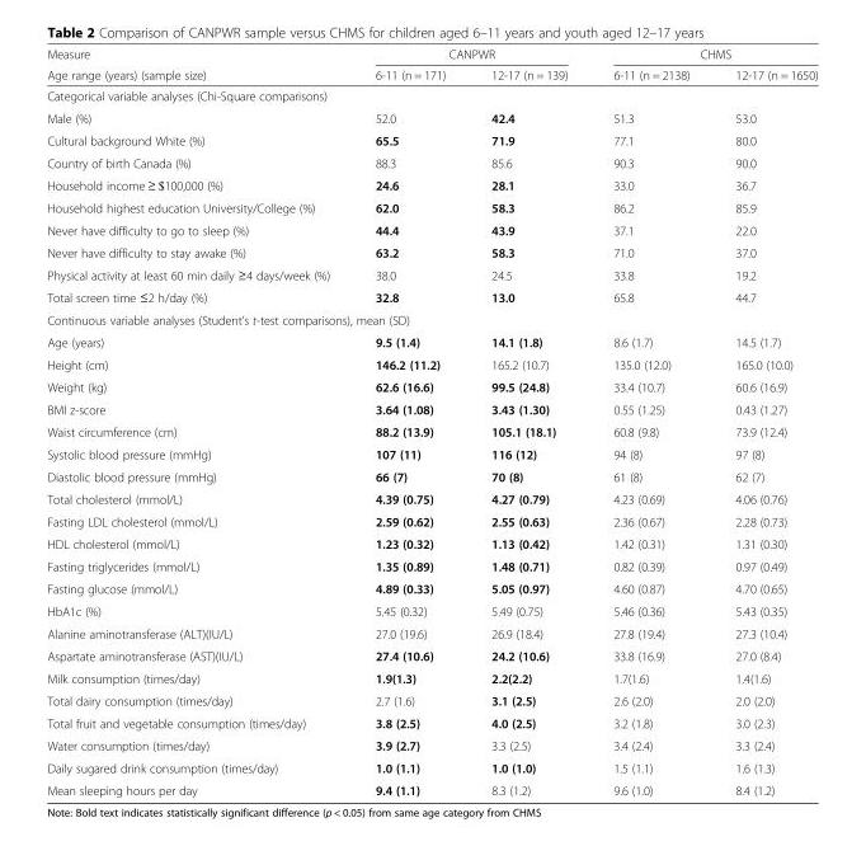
<table><thead><tr><td rowspan="2">Measure Age range (years) (sample size)</td><td colspan="2">CANPWR</td><td colspan="2">CHMS</td></tr><tr><td>6-11 (n = 171)</td><td>12-17 (n = 139)</td><td>6-11 (n = 2138)</td><td>12-17 (n = 1650)</td></tr></thead><tbody><tr><td colspan="5">Categorical variable analyses (Chi-Square comparisons)</td></tr><tr><td>Male (%)</td><td>52.0</td><td>42.4</td><td>51.3</td><td>53.0</td></tr><tr><td>Cultural background White (%)</td><td>65.5</td><td>71.9</td><td>77.1</td><td>80.0</td></tr><tr><td>Country of birth Canada (%)</td><td>88.3</td><td>85.6</td><td>90.3</td><td>90.0</td></tr><tr><td>Household income ≥ $100,000 (%)</td><td>24.6</td><td>28.1</td><td>33.0</td><td>36.7</td></tr><tr><td>Household highest education University/College (%)</td><td>62.0</td><td>58.3</td><td>86.2</td><td>85.9</td></tr><tr><td>Never have difficulty to go to sleep (%)</td><td>44.4</td><td>43.9</td><td>37.1</td><td>22.0</td></tr><tr><td>Never have difficulty to stay awake (%)</td><td>63.2</td><td>58.3</td><td>71.0</td><td>37.0</td></tr><tr><td>Physical activity at least 60 min daily ≥4 days/week (%)</td><td>38.0</td><td>24.5</td><td>33.8</td><td>19.2</td></tr><tr><td>Total screen time ≤2 h/day (%)</td><td>32.8</td><td>13.0</td><td>65.8</td><td>44.7</td></tr><tr><td colspan="5">Continuous variable analyses (Student’s t-test comparisons), mean (SD)</td></tr><tr><td>Age (years)</td><td>9.5 (1.4)</td><td>14.1 (1.8)</td><td>8.6 (1.7)</td><td>14.5 (1.7)</td></tr><tr><td>Height (cm)</td><td>146.2 (11.2)</td><td>165.2 (10.7)</td><td>135.0 (12.0)</td><td>165.0 (10.0)</td></tr><tr><td>Weight (kg)</td><td>62.6 (16.6)</td><td>99.5 (24.8)</td><td>33.4 (10.7)</td><td>60.6 (16.9)</td></tr><tr><td>BMI z-score</td><td>3.64 (1.08)</td><td>3.43 (1.30)</td><td>0.55 (1.25)</td><td>0.43 (1.27)</td></tr><tr><td>Waist circumference (cm)</td><td>88.2 (13.9)</td><td>105.1 (18.1)</td><td>60.8 (9.8)</td><td>73.9 (12.4)</td></tr><tr><td>Systolic blood pressure (mmHg)</td><td>107 (11)</td><td>116 (12)</td><td>94 (8)</td><td>97 (8)</td></tr><tr><td>Diastolic blood pressure (mmHg)</td><td>66 (7)</td><td>70 (8)</td><td>61 (8)</td><td>62 (7)</td></tr><tr><td>Total cholesterol (mmol/L)</td><td>4.39 (0.75)</td><td>4.27 (0.79)</td><td>4.23 (0.69)</td><td>4.06 (0.76)</td></tr><tr><td>Fasting LDL cholesterol (mmol/L)</td><td>2.59 (0.62)</td><td>2.55 (0.63)</td><td>2.36 (0.67)</td><td>2.28 (0.73)</td></tr><tr><td>HDL cholesterol (mmol/L)</td><td>1.23 (0.32)</td><td>1.13 (0.42)</td><td>1.42 (0.31)</td><td>1.31 (0.30)</td></tr><tr><td>Fasting triglycerides (mmol/L)</td><td>1.35 (0.89)</td><td>1.48 (0.71)</td><td>0.82 (0.39)</td><td>0.97 (0.49)</td></tr><tr><td>Fasting glucose (mmol/L)</td><td>4.89 (0.33)</td><td>5.05 (0.97)</td><td>4.60 (0.87)</td><td>4.70 (0.65)</td></tr><tr><td>HbA1c (%)</td><td>5.45 (0.32)</td><td>5.49 (0.75)</td><td>5.46 (0.36)</td><td>5.43 (0.35)</td></tr><tr><td>Alanine aminotransferase (ALT)(IU/L)</td><td>27.0 (19.6)</td><td>26.9 (18.4)</td><td>27.8 (19.4)</td><td>27.3 (10.4)</td></tr><tr><td>Aspartate aminotransferase (AST)(IU/L)</td><td>27.4 (10.6)</td><td>24.2 (10.6)</td><td>33.8 (16.9)</td><td>27.0 (8.4)</td></tr><tr><td>Milk consumption (times/day)</td><td>1.9(1.3)</td><td>2.2(2.2)</td><td>1.7(1.6)</td><td>1.4(1.6)</td></tr><tr><td>Total dairy consumption (times/day)</td><td>2.7 (1.6)</td><td>3.1 (2.5)</td><td>2.6 (2.0)</td><td>2.0 (2.0)</td></tr><tr><td>Total fruit and vegetable consumption (times/day)</td><td>3.8 (2.5)</td><td>4.0 (2.5)</td><td>3.2 (1.8)</td><td>3.0 (2.3)</td></tr><tr><td>Water consumption (times/day)</td><td>3.9 (2.7)</td><td>3.3 (2.5)</td><td>3.4 (2.4)</td><td>3.3 (2.4)</td></tr><tr><td>Daily sugared drink consumption (times/day)</td><td>1.0 (1.1)</td><td>1.0 (1.0)</td><td>1.5 (1.1)</td><td>1.6 (1.3)</td></tr><tr><td>Mean sleeping hours per day</td><td>9.4 (1.1)</td><td>8.3 (1.2)</td><td>9.6 (1.0)</td><td>8.4 (1.2)</td></tr></tbody></table>